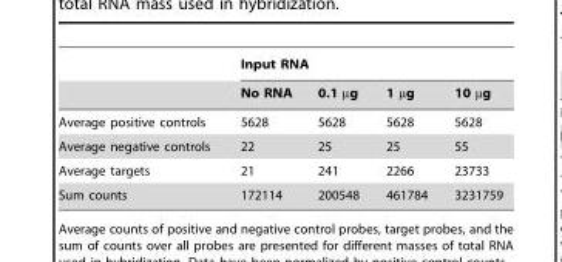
<table><thead><tr><td rowspan="2"></td><td colspan="4">Input RNA</td></tr><tr><td>No RNA</td><td>0.1 µg</td><td>1 µg</td><td>10 µg</td></tr></thead><tbody><tr><td>Average positive controls</td><td>5628</td><td>5628</td><td>5628</td><td>5628</td></tr><tr><td>Average negative controls</td><td>22</td><td>25</td><td>25</td><td>55</td></tr><tr><td>Average targets</td><td>21</td><td>241</td><td>2266</td><td>23733</td></tr><tr><td>Sum counts</td><td>172114</td><td>200548</td><td>461784</td><td>3231759</td></tr></tbody></table>